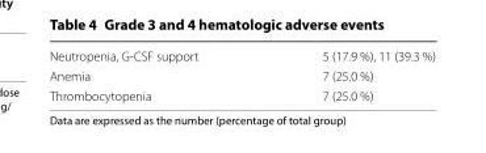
<table><tbody><tr><td>Neutropenia, G-CSF support</td><td>5 (17.9 %), 11 (39.3 %)</td></tr><tr><td>Anemia</td><td>7 (25.0 %)</td></tr><tr><td>Thrombocytopenia</td><td>7 (25.0 %)</td></tr></tbody></table>